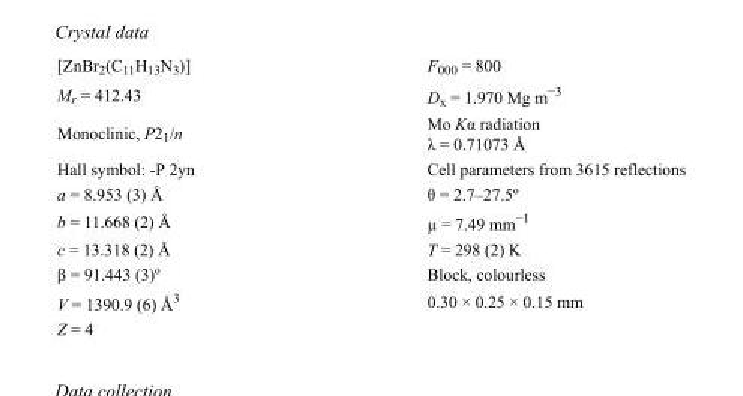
<table><tbody><tr><td>[ZnBr<sub>2</sub>(C<sub>11</sub>H<sub>13</sub>N<sub>3</sub>)]</td><td>F<sub>000</sub> = 800</td></tr><tr><td>M<sub>r</sub> = 412.43</td><td>D<sub>x</sub> = 1.970 Mg m<sup>−3</sup></td></tr><tr><td>Monoclinic, P2<sub>1</sub>/n</td><td>Mo Kα radiation λ = 0.71073 Å</td></tr><tr><td>Hall symbol: -P 2yn</td><td>Cell parameters from 3615 reflections</td></tr><tr><td>a = 8.953 (3) Å</td><td>θ = 2.7–27.5º</td></tr><tr><td>b = 11.668 (2) Å</td><td>µ = 7.49 mm<sup>−1</sup></td></tr><tr><td>c = 13.318 (2) Å</td><td>T = 298 (2) K</td></tr><tr><td>β = 91.443 (3)º</td><td>Block, colourless</td></tr><tr><td>V = 1390.9 (6) Å<sup>3</sup></td><td>0.30 × 0.25 × 0.15 mm</td></tr><tr><td>Z = 4</td><td></td></tr></tbody></table>